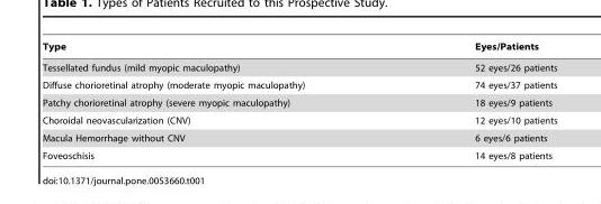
<table><thead><tr><td>Type</td><td>Eyes/Patients</td></tr></thead><tbody><tr><td>Tessellated fundus (mild myopic maculopathy)</td><td>52 eyes/26 patients</td></tr><tr><td>Diffuse chorioretinal atrophy (moderate myopic maculopathy)</td><td>74 eyes/37 patients</td></tr><tr><td>Patchy chorioretinal atrophy (severe myopic maculopathy)</td><td>18 eyes/9 patients</td></tr><tr><td>Choroidal neovascularization (CNV)</td><td>12 eyes/10 patients</td></tr><tr><td>Macula Hemorrhage without CNV</td><td>6 eyes/6 patients</td></tr><tr><td>Foveoschisis</td><td>14 eyes/8 patients</td></tr></tbody></table>